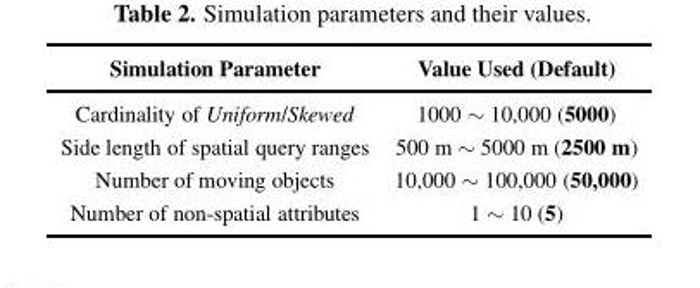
<table><thead><tr><td>Simulation Parameter</td><td>Value Used (Default)</td></tr></thead><tbody><tr><td>Cardinality of Uniform/Skewed</td><td>1000 ∼ 10,000 (5000)</td></tr><tr><td>Side length of spatial query ranges</td><td>500 m ∼ 5000 m (2500 m)</td></tr><tr><td>Number of moving objects</td><td>10,000 ∼ 100,000 (50,000)</td></tr><tr><td>Number of non-spatial attributes</td><td>1 ∼ 10 (5)</td></tr></tbody></table>